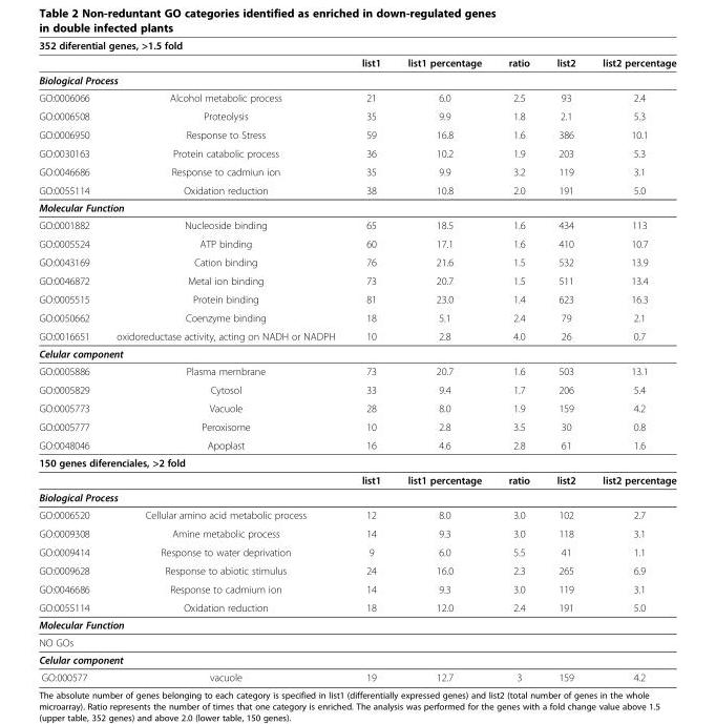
<table><thead><tr><td colspan="7">352 diferential genes, &gt;1.5 fold</td></tr><tr><td></td><td></td><td>list1</td><td>list1 percentage</td><td>ratio</td><td>list2</td><td>list2 percentage</td></tr></thead><tbody><tr><td colspan="7">Biological Process</td></tr><tr><td>GO:0006066</td><td>Alcohol metabolic process</td><td>21</td><td>6.0</td><td>2.5</td><td>93</td><td>2.4</td></tr><tr><td>GO:0006508</td><td>Proteolysis</td><td>35</td><td>9.9</td><td>1.8</td><td>2.1</td><td>5.3</td></tr><tr><td>GO:0006950</td><td>Response to Stress</td><td>59</td><td>16.8</td><td>1.6</td><td>386</td><td>10.1</td></tr><tr><td>GO:0030163</td><td>Protein catabolic process</td><td>36</td><td>10.2</td><td>1.9</td><td>203</td><td>5.3</td></tr><tr><td>GO:0046686</td><td>Response to cadmiun ion</td><td>35</td><td>9.9</td><td>3.2</td><td>119</td><td>3.1</td></tr><tr><td>GO:0055114</td><td>Oxidation reduction</td><td>38</td><td>10.8</td><td>2.0</td><td>191</td><td>5.0</td></tr><tr><td colspan="7">Molecular Function</td></tr><tr><td>GO:0001882</td><td>Nucleoside binding</td><td>65</td><td>18.5</td><td>1.6</td><td>434</td><td>113</td></tr><tr><td>GO:0005524</td><td>ATP binding</td><td>60</td><td>17.1</td><td>1.6</td><td>410</td><td>10.7</td></tr><tr><td>GO:0043169</td><td>Cation binding</td><td>76</td><td>21.6</td><td>1.5</td><td>532</td><td>13.9</td></tr><tr><td>GO:0046872</td><td>Metal ion binding</td><td>73</td><td>20.7</td><td>1.5</td><td>511</td><td>13.4</td></tr><tr><td>GO:0005515</td><td>Protein binding</td><td>81</td><td>23.0</td><td>1.4</td><td>623</td><td>16.3</td></tr><tr><td>GO:0050662</td><td>Coenzyme binding</td><td>18</td><td>5.1</td><td>2.4</td><td>79</td><td>2.1</td></tr><tr><td>GO:0016651</td><td>oxidoreductase activity, acting on NADH or NADPH</td><td>10</td><td>2.8</td><td>4.0</td><td>26</td><td>0.7</td></tr><tr><td colspan="7">Celular component</td></tr><tr><td>GO:0005886</td><td>Plasma membrane</td><td>73</td><td>20.7</td><td>1.6</td><td>503</td><td>13.1</td></tr><tr><td>GO:0005829</td><td>Cytosol</td><td>33</td><td>9.4</td><td>1.7</td><td>206</td><td>5.4</td></tr><tr><td>GO:0005773</td><td>Vacuole</td><td>28</td><td>8.0</td><td>1.9</td><td>159</td><td>4.2</td></tr><tr><td>GO:0005777</td><td>Peroxisome</td><td>10</td><td>2.8</td><td>3.5</td><td>30</td><td>0.8</td></tr><tr><td>GO:0048046</td><td>Apoplast</td><td>16</td><td>4.6</td><td>2.8</td><td>61</td><td>1.6</td></tr><tr><td colspan="7">150 genes diferenciales, &gt;2 fold</td></tr><tr><td></td><td></td><td>list1</td><td>list1 percentage</td><td>ratio</td><td>list2</td><td>list2 percentage</td></tr><tr><td colspan="7">Biological Process</td></tr><tr><td>GO:0006520</td><td>Cellular amino acid metabolic process</td><td>12</td><td>8.0</td><td>3.0</td><td>102</td><td>2.7</td></tr><tr><td>GO:0009308</td><td>Amine metabolic process</td><td>14</td><td>9.3</td><td>3.0</td><td>118</td><td>3.1</td></tr><tr><td>GO:0009414</td><td>Response to water deprivation</td><td>9</td><td>6.0</td><td>5.5</td><td>41</td><td>1.1</td></tr><tr><td>GO:0009628</td><td>Response to abiotic stimulus</td><td>24</td><td>16.0</td><td>2.3</td><td>265</td><td>6.9</td></tr><tr><td>GO:0046686</td><td>Response to cadmium ion</td><td>14</td><td>9.3</td><td>3.0</td><td>119</td><td>3.1</td></tr><tr><td>GO:0055114</td><td>Oxidation reduction</td><td>18</td><td>12.0</td><td>2.4</td><td>191</td><td>5.0</td></tr><tr><td colspan="7">Molecular Function</td></tr><tr><td colspan="7">NO GOs</td></tr><tr><td colspan="7">Celular component</td></tr><tr><td>GO:000577</td><td>vacuole</td><td>19</td><td>12.7</td><td>3</td><td>159</td><td>4.2</td></tr></tbody></table>